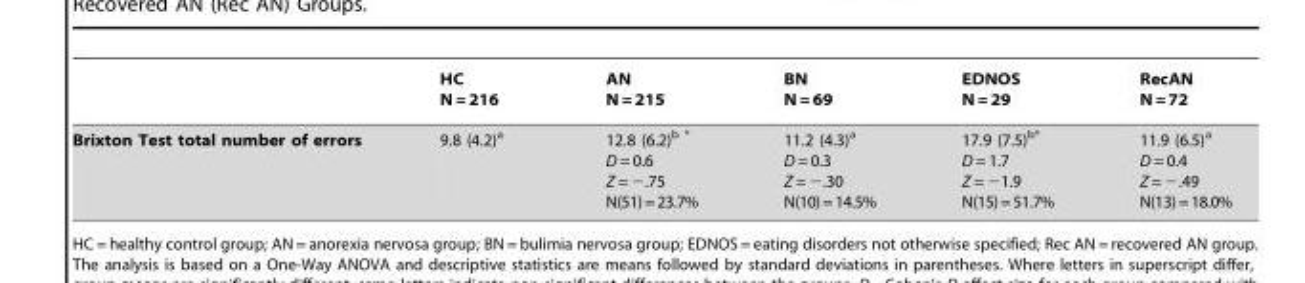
<table><thead><tr><td></td><td>HC N = 216</td><td>AN N = 215</td><td>BN N = 69</td><td>EDNOS N = 29</td><td>RecAN N = 72</td></tr></thead><tbody><tr><td>Brixton Test total number of errors</td><td>9.8 (4.2)<sup>a</sup></td><td>12.8 (6.2)<sup>b *</sup> D = 0.6 Z = −.75 N(51)=23.7%</td><td>11.2 (4.3)<sup>a</sup> D = 0.3 Z = −.30 N(10)=14.5%</td><td>17.9 (7.5)<sup>b*</sup> D = 1.7 Z = −1.9 N(15)=51.7%</td><td>11.9 (6.5)<sup>a</sup> D = 0.4 Z = −.49 N(13)=18.0%</td></tr></tbody></table>